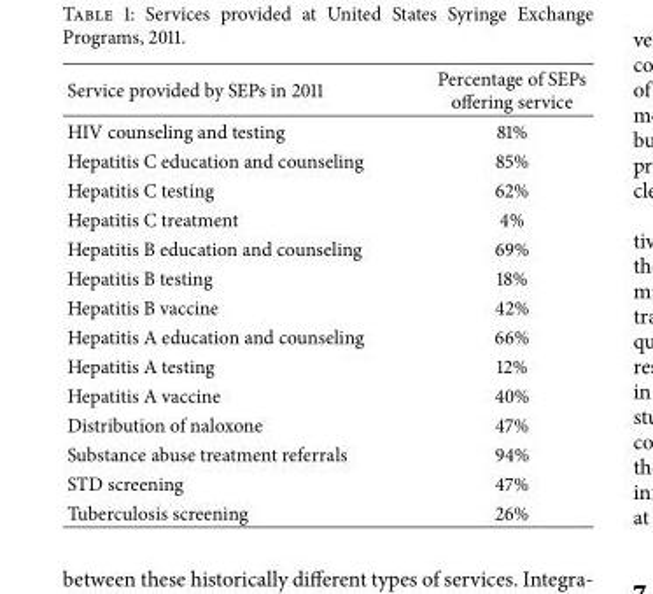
<table><thead><tr><td>Service provided by SEPs in 2011</td><td>Percentage of SEPs offering service</td></tr></thead><tbody><tr><td>HIV counseling and testing</td><td>81%</td></tr><tr><td>Hepatitis C education and counseling</td><td>85%</td></tr><tr><td>Hepatitis C testing</td><td>62%</td></tr><tr><td>Hepatitis C treatment</td><td>4%</td></tr><tr><td>Hepatitis B education and counseling</td><td>69%</td></tr><tr><td>Hepatitis B testing</td><td>18%</td></tr><tr><td>Hepatitis B vaccine</td><td>42%</td></tr><tr><td>Hepatitis A education and counseling</td><td>66%</td></tr><tr><td>Hepatitis A testing</td><td>12%</td></tr><tr><td>Hepatitis A vaccine</td><td>40%</td></tr><tr><td>Distribution of naloxone</td><td>47%</td></tr><tr><td>Substance abuse treatment referrals</td><td>94%</td></tr><tr><td>STD screening</td><td>47%</td></tr><tr><td>Tuberculosis screening</td><td>26%</td></tr></tbody></table>